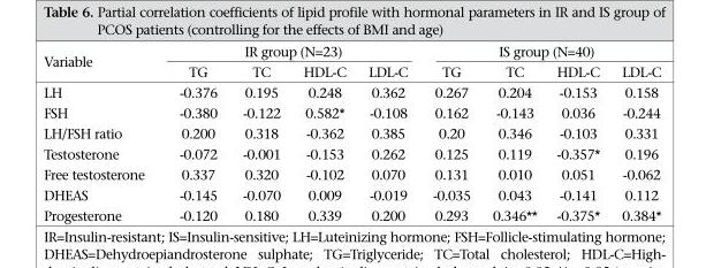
<table><thead><tr><td rowspan="2">Variable</td><td colspan="4">IR group (N=23)</td><td colspan="4">IS group (N=40)</td></tr><tr><td>TG</td><td>TC</td><td>HDL-C</td><td>LDL-C</td><td>TG</td><td>TC</td><td>HDL-C</td><td>LDL-C</td></tr></thead><tbody><tr><td>LH</td><td>-0.376</td><td>0.195</td><td>0.248</td><td>0.362</td><td>0.267</td><td>0.204</td><td>-0.153</td><td>0.158</td></tr><tr><td>FSH</td><td>-0.380</td><td>-0.122</td><td>0.582*</td><td>-0.108</td><td>0.162</td><td>-0.143</td><td>0.036</td><td>-0.244</td></tr><tr><td>LH/FSH ratio</td><td>0.200</td><td>0.318</td><td>-0.362</td><td>0.385</td><td>0.20</td><td>0.346</td><td>-0.103</td><td>0.331</td></tr><tr><td>Testosterone</td><td>-0.072</td><td>-0.001</td><td>-0.153</td><td>0.262</td><td>0.125</td><td>0.119</td><td>-0.357*</td><td>0.196</td></tr><tr><td>Free testosterone</td><td>0.337</td><td>0.320</td><td>-0.102</td><td>0.070</td><td>0.131</td><td>0.010</td><td>0.051</td><td>-0.062</td></tr><tr><td>DHEAS</td><td>-0.145</td><td>-0.070</td><td>0.009</td><td>-0.019</td><td>-0.035</td><td>0.043</td><td>-0.141</td><td>0.112</td></tr><tr><td>Progesterone</td><td>-0.120</td><td>0.180</td><td>0.339</td><td>0.200</td><td>0.293</td><td>0.346**</td><td>-0.375*</td><td>0.384*</td></tr></tbody></table>